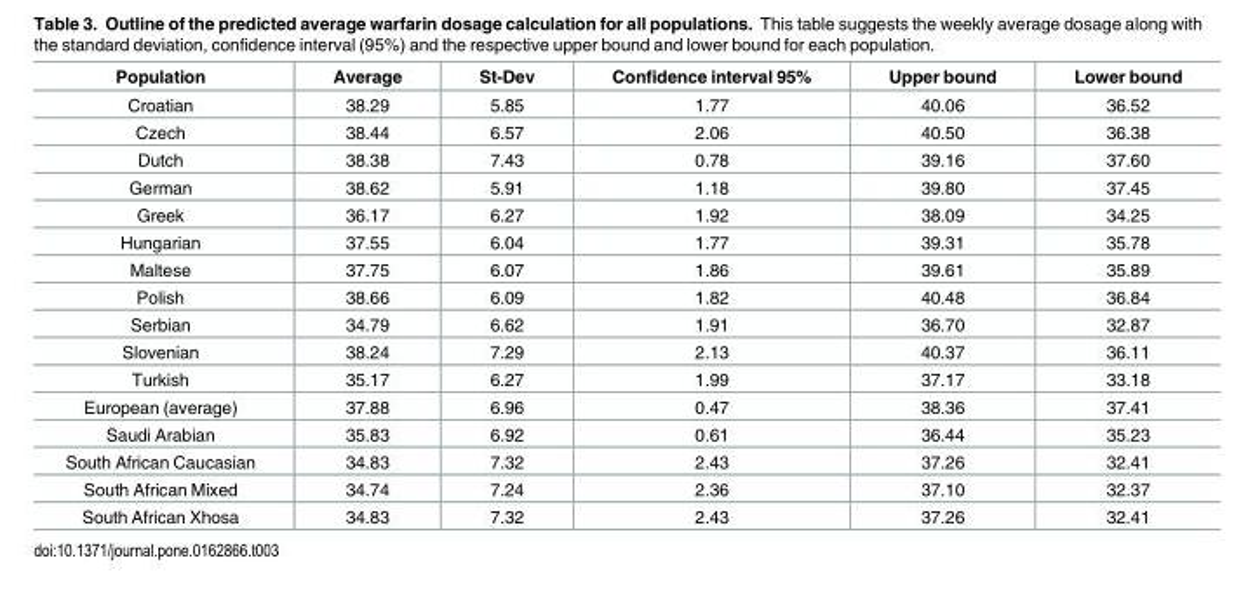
<table><thead><tr><td>Population</td><td>Average</td><td>St-Dev</td><td>Confidence interval 95%</td><td>Upper bound</td><td>Lower bound</td></tr></thead><tbody><tr><td>Croatian</td><td>38.29</td><td>5.85</td><td>1.77</td><td>40.06</td><td>36.52</td></tr><tr><td>Czech</td><td>38.44</td><td>6.57</td><td>2.06</td><td>40.50</td><td>36.38</td></tr><tr><td>Dutch</td><td>38.38</td><td>7.43</td><td>0.78</td><td>39.16</td><td>37.60</td></tr><tr><td>German</td><td>38.62</td><td>5.91</td><td>1.18</td><td>39.80</td><td>37.45</td></tr><tr><td>Greek</td><td>36.17</td><td>6.27</td><td>1.92</td><td>38.09</td><td>34.25</td></tr><tr><td>Hungarian</td><td>37.55</td><td>6.04</td><td>1.77</td><td>39.31</td><td>35.78</td></tr><tr><td>Maltese</td><td>37.75</td><td>6.07</td><td>1.86</td><td>39.61</td><td>35.89</td></tr><tr><td>Polish</td><td>38.66</td><td>6.09</td><td>1.82</td><td>40.48</td><td>36.84</td></tr><tr><td>Serbian</td><td>34.79</td><td>6.62</td><td>1.91</td><td>36.70</td><td>32.87</td></tr><tr><td>Slovenian</td><td>38.24</td><td>7.29</td><td>2.13</td><td>40.37</td><td>36.11</td></tr><tr><td>Turkish</td><td>35.17</td><td>6.27</td><td>1.99</td><td>37.17</td><td>33.18</td></tr><tr><td>European (average)</td><td>37.88</td><td>6.96</td><td>0.47</td><td>38.36</td><td>37.41</td></tr><tr><td>Saudi Arabian</td><td>35.83</td><td>6.92</td><td>0.61</td><td>36.44</td><td>35.23</td></tr><tr><td>South African Caucasian</td><td>34.83</td><td>7.32</td><td>2.43</td><td>37.26</td><td>32.41</td></tr><tr><td>South African Mixed</td><td>34.74</td><td>7.24</td><td>2.36</td><td>37.10</td><td>32.37</td></tr><tr><td>South African Xhosa</td><td>34.83</td><td>7.32</td><td>2.43</td><td>37.26</td><td>32.41</td></tr></tbody></table>